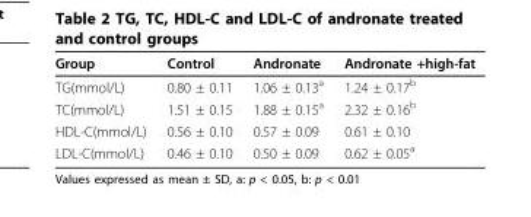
<table><thead><tr><td>Group</td><td>Control</td><td>Andronate</td><td>Andronate +high-fat</td></tr></thead><tbody><tr><td>TG(mmol/L)</td><td>0.80 ± 0.11</td><td>1.06 ± 0.13<sup>a</sup></td><td>1.24 ± 0.17<sup>b</sup></td></tr><tr><td>TC(mmol/L)</td><td>1.51 ± 0.15</td><td>1.88 ± 0.15<sup>a</sup></td><td>2.32 ± 0.16<sup>b</sup></td></tr><tr><td>HDL-C(mmol/L)</td><td>0.56 ± 0.10</td><td>0.57 ± 0.09</td><td>0.61 ± 0.10</td></tr><tr><td>LDL-C(mmol/L)</td><td>0.46 ± 0.10</td><td>0.50 ± 0.09</td><td>0.62 ± 0.05<sup>a</sup></td></tr></tbody></table>